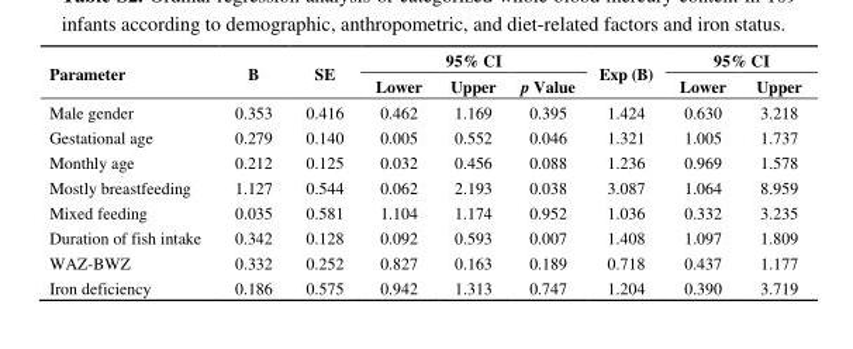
<table><thead><tr><td rowspan="2">Parameter</td><td rowspan="2">B</td><td rowspan="2">SE</td><td colspan="3">95% CI</td><td rowspan="2">Exp (B)</td><td colspan="2">95% CI</td></tr><tr><td>Lower</td><td>Upper</td><td>p Value</td><td>Lower</td><td>Upper</td></tr></thead><tbody><tr><td>Male gender</td><td>0.353</td><td>0.416</td><td>0.462</td><td>1.169</td><td>0.395</td><td>1.424</td><td>0.630</td><td>3.218</td></tr><tr><td>Gestational age</td><td>0.279</td><td>0.140</td><td>0.005</td><td>0.552</td><td>0.046</td><td>1.321</td><td>1.005</td><td>1.737</td></tr><tr><td>Monthly age</td><td>0.212</td><td>0.125</td><td>0.032</td><td>0.456</td><td>0.088</td><td>1.236</td><td>0.969</td><td>1.578</td></tr><tr><td>Mostly breastfeeding</td><td>1.127</td><td>0.544</td><td>0.062</td><td>2.193</td><td>0.038</td><td>3.087</td><td>1.064</td><td>8.959</td></tr><tr><td>Mixed feeding</td><td>0.035</td><td>0.581</td><td>1.104</td><td>1.174</td><td>0.952</td><td>1.036</td><td>0.332</td><td>3.235</td></tr><tr><td>Duration of fish intake</td><td>0.342</td><td>0.128</td><td>0.092</td><td>0.593</td><td>0.007</td><td>1.408</td><td>1.097</td><td>1.809</td></tr><tr><td>WAZ-BWZ</td><td>0.332</td><td>0.252</td><td>0.827</td><td>0.163</td><td>0.189</td><td>0.718</td><td>0.437</td><td>1.177</td></tr><tr><td>Iron deficiency</td><td>0.186</td><td>0.575</td><td>0.942</td><td>1.313</td><td>0.747</td><td>1.204</td><td>0.390</td><td>3.719</td></tr></tbody></table>